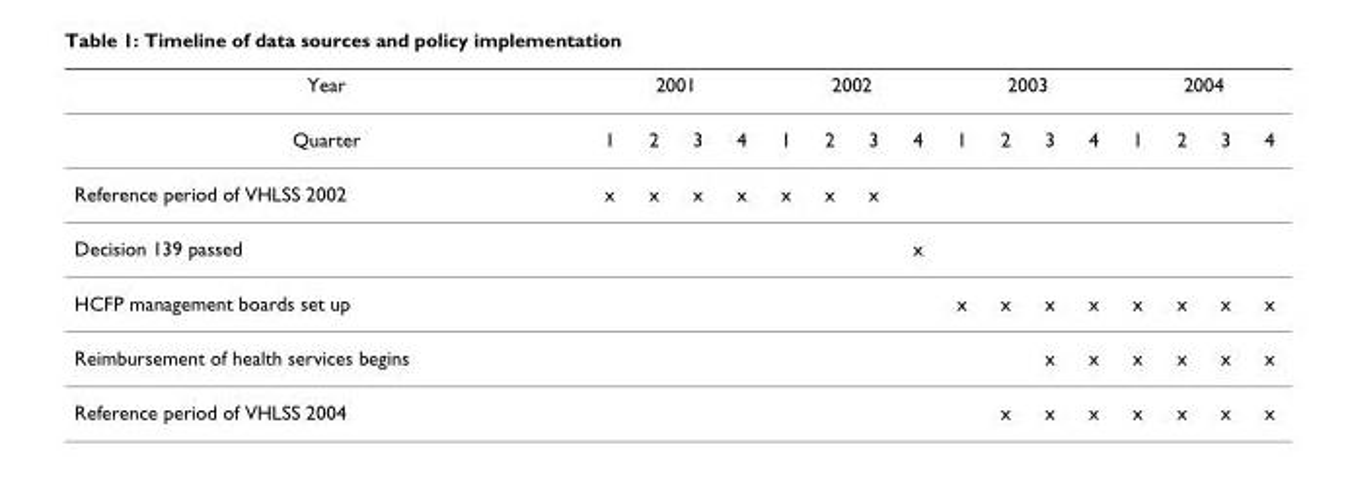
<table><thead><tr><td rowspan="2">Year Quarter</td><td colspan="4">2001</td><td colspan="4">2002</td><td colspan="4">2003</td><td colspan="4">2004</td></tr><tr><td>1</td><td>2</td><td>3</td><td>4</td><td>1</td><td>2</td><td>3</td><td>4</td><td>1</td><td>2</td><td>3</td><td>4</td><td>1</td><td>2</td><td>3</td><td>4</td></tr></thead><tbody><tr><td>Reference period of VHLSS 2002</td><td>x</td><td>x</td><td>x</td><td>x</td><td>x</td><td>x</td><td>x</td><td></td><td></td><td></td><td></td><td></td><td></td><td></td><td></td><td></td></tr><tr><td>Decision 139 passed</td><td></td><td></td><td></td><td></td><td></td><td></td><td></td><td>x</td><td></td><td></td><td></td><td></td><td></td><td></td><td></td><td></td></tr><tr><td>HCFP management boards set up</td><td></td><td></td><td></td><td></td><td></td><td></td><td></td><td></td><td>x</td><td>x</td><td>x</td><td>x</td><td>x</td><td>x</td><td>x</td><td>x</td></tr><tr><td>Reimbursement of health services begins</td><td></td><td></td><td></td><td></td><td></td><td></td><td></td><td></td><td></td><td></td><td>x</td><td>x</td><td>x</td><td>x</td><td>x</td><td>x</td></tr><tr><td>Reference period of VHLSS 2004</td><td></td><td></td><td></td><td></td><td></td><td></td><td></td><td></td><td></td><td>x</td><td>x</td><td>x</td><td>x</td><td>x</td><td>x</td><td>x</td></tr></tbody></table>